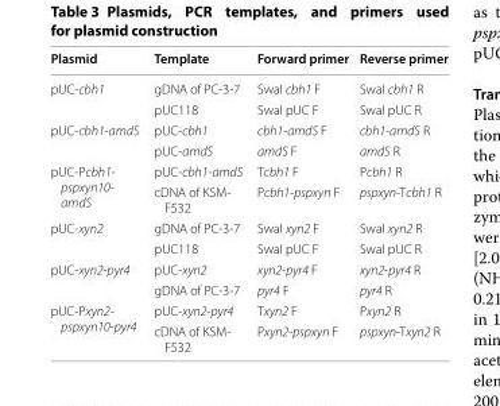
<table><thead><tr><td>Plasmid</td><td>Template</td><td>Forward primer</td><td>Reverse primer</td></tr></thead><tbody><tr><td rowspan="2">pUC-cbh1</td><td>gDNA of PC-3-7</td><td>SwaI cbh1 F</td><td>SwaI cbh1 R</td></tr><tr><td>pUC118</td><td>SwaI pUC F</td><td>SwaI pUC R</td></tr><tr><td rowspan="2">pUC-cbh1-amdS</td><td>pUC-cbh1</td><td>cbh1-amdS F</td><td>cbh1-amdS R</td></tr><tr><td>pUC-amdS</td><td>amdS F</td><td>amdS R</td></tr><tr><td rowspan="2">pUC-Pcbh1- pspxyn10- amdS</td><td>pUC-cbh1-amdS</td><td>Tcbh1 F</td><td>Pcbh1 R</td></tr><tr><td>cDNA of KSM- F532</td><td>Pcbh1-pspxyn F</td><td>pspxyn-Tcbh1 R</td></tr><tr><td rowspan="2">pUC-xyn2</td><td>gDNA of PC-3-7</td><td>SwaI xyn2 F</td><td>SwaI xyn2 R</td></tr><tr><td>pUC118</td><td>SwaI pUC F</td><td>SwaI pUC R</td></tr><tr><td rowspan="2">pUC-xyn2-pyr4</td><td>pUC-xyn2</td><td>xyn2-pyr4 F</td><td>xyn2-pyr4 R</td></tr><tr><td>gDNA of PC-3-7</td><td>pyr4 F</td><td>pyr4 R</td></tr><tr><td rowspan="2">pUC-Pxyn2- pspxyn10-pyr4</td><td>pUC-xyn2-pyr4</td><td>Txyn2 F</td><td>Pxyn2 R</td></tr><tr><td>cDNA of KSM- F532</td><td>Pxyn2-pspxyn F</td><td>pspxyn-Txyn2 R</td></tr></tbody></table>